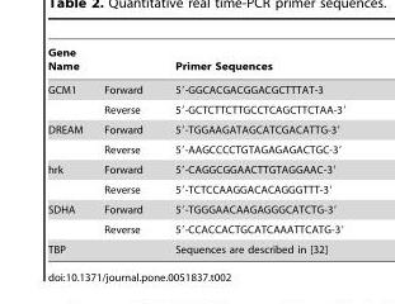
<table><thead><tr><td>Gene Name</td><td></td><td>Primer Sequences</td></tr></thead><tbody><tr><td rowspan="2">GCM1</td><td>Forward</td><td>5′-GGCACGACGGACGCTTTAT-3</td></tr><tr><td>Reverse</td><td>5′-GCTCTTCTTGCCTCAGCTTCTAA-3′</td></tr><tr><td rowspan="2">DREAM</td><td>Forward</td><td>5′-TGGAAGATAGCATCGACATTG-3′</td></tr><tr><td>Reverse</td><td>5′-AAGCCCCTGTAGAGAGACTGC-3′</td></tr><tr><td rowspan="2">hrk</td><td>Forward</td><td>5′-CAGGCGGAACTTGTAGGAAC-3′</td></tr><tr><td>Reverse</td><td>5′-TCTCCAAGGACACAGGGTTT-3′</td></tr><tr><td rowspan="2">SDHA</td><td>Forward</td><td>5′-TGGGAACAAGAGGGCATCTG-3′</td></tr><tr><td>Reverse</td><td>5′-CCACCACTGCATCAAATTCATG-3′</td></tr><tr><td>TBP</td><td></td><td>Sequences are described in [32]</td></tr></tbody></table>